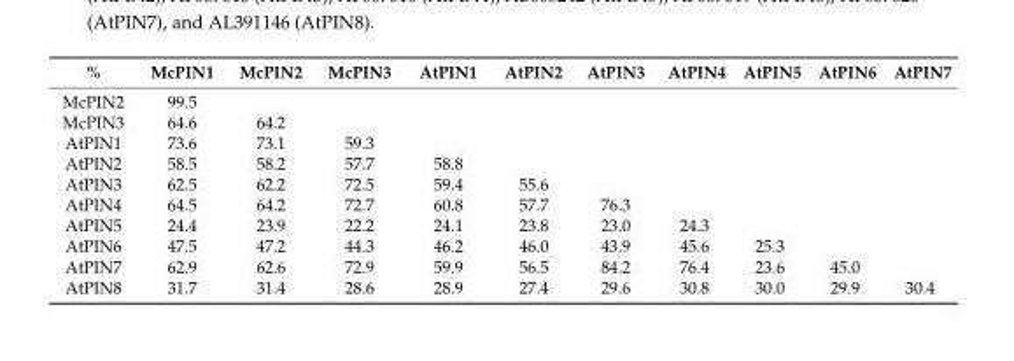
<table><thead><tr><td>%</td><td>McPIN1</td><td>McPIN2</td><td>McPIN3</td><td>AtPIN1</td><td>AtPIN2</td><td>AtPIN3</td><td>AtPIN4</td><td>AtPIN5</td><td>AtPIN6</td><td>AtPIN7</td></tr></thead><tbody><tr><td>McPIN2</td><td>99.5</td><td></td><td></td><td></td><td></td><td></td><td></td><td></td><td></td><td></td></tr><tr><td>McPIN3</td><td>64.6</td><td>64.2</td><td></td><td></td><td></td><td></td><td></td><td></td><td></td><td></td></tr><tr><td>AtPIN1</td><td>73.6</td><td>73.1</td><td>59.3</td><td></td><td></td><td></td><td></td><td></td><td></td><td></td></tr><tr><td>AtPIN2</td><td>58.5</td><td>58.2</td><td>57.7</td><td>58.8</td><td></td><td></td><td></td><td></td><td></td><td></td></tr><tr><td>AtPIN3</td><td>62.5</td><td>62.2</td><td>72.5</td><td>59.4</td><td>55.6</td><td></td><td></td><td></td><td></td><td></td></tr><tr><td>AtPIN4</td><td>64.5</td><td>64.2</td><td>72.7</td><td>60.8</td><td>57.7</td><td>76.3</td><td></td><td></td><td></td><td></td></tr><tr><td>AtPIN5</td><td>24.4</td><td>23.9</td><td>22.2</td><td>24.1</td><td>23.8</td><td>23.0</td><td>24.3</td><td></td><td></td><td></td></tr><tr><td>AtPIN6</td><td>47.5</td><td>47.2</td><td>44.3</td><td>46.2</td><td>46.0</td><td>43.9</td><td>45.6</td><td>25.3</td><td></td><td></td></tr><tr><td>AtPIN7</td><td>62.9</td><td>62.6</td><td>72.9</td><td>59.9</td><td>56.5</td><td>84.2</td><td>76.4</td><td>23.6</td><td>45.0</td><td></td></tr><tr><td>AtPIN8</td><td>31.7</td><td>31.4</td><td>28.6</td><td>28.9</td><td>27.4</td><td>29.6</td><td>30.8</td><td>30.0</td><td>29.9</td><td>30.4</td></tr></tbody></table>